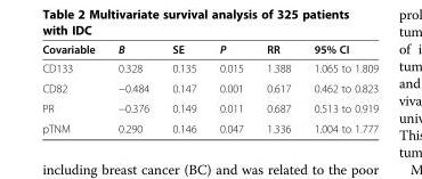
<table><thead><tr><td>Covariable</td><td>B</td><td>SE</td><td>P</td><td>RR</td><td>95% CI</td></tr></thead><tbody><tr><td>CD133</td><td>0.328</td><td>0.135</td><td>0.015</td><td>1.388</td><td>1.065 to 1.809</td></tr><tr><td>CD82</td><td>−0.484</td><td>0.147</td><td>0.001</td><td>0.617</td><td>0.462 to 0.823</td></tr><tr><td>PR</td><td>−0.376</td><td>0.149</td><td>0.011</td><td>0.687</td><td>0.513 to 0.919</td></tr><tr><td>pTNM</td><td>0.290</td><td>0.146</td><td>0.047</td><td>1.336</td><td>1.004 to 1.777</td></tr></tbody></table>